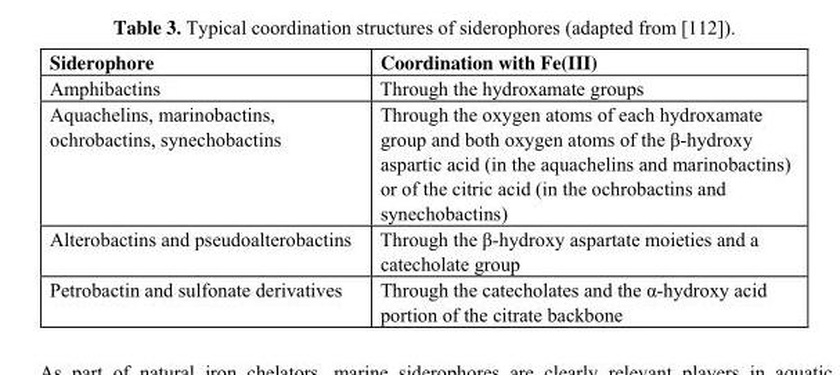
<table><thead><tr><td>Siderophore</td><td>Coordination with Fe(III)</td></tr></thead><tbody><tr><td>Amphibactins</td><td>Through the hydroxamate groups</td></tr><tr><td>Aquachelins, marinobactins, ochrobactins, synechobactins</td><td>Through the oxygen atoms of each hydroxamate group and both oxygen atoms of the β-hydroxy aspartic acid (in the aquachelins and marinobactins) or of the citric acid (in the ochrobactins and synechobactins)</td></tr><tr><td>Alterobactins and pseudoalterobactins</td><td>Through the β-hydroxy aspartate moieties and a catecholate group</td></tr><tr><td>Petrobactin and sulfonate derivatives</td><td>Through the catecholates and the α-hydroxy acid portion of the citrate backbone</td></tr></tbody></table>